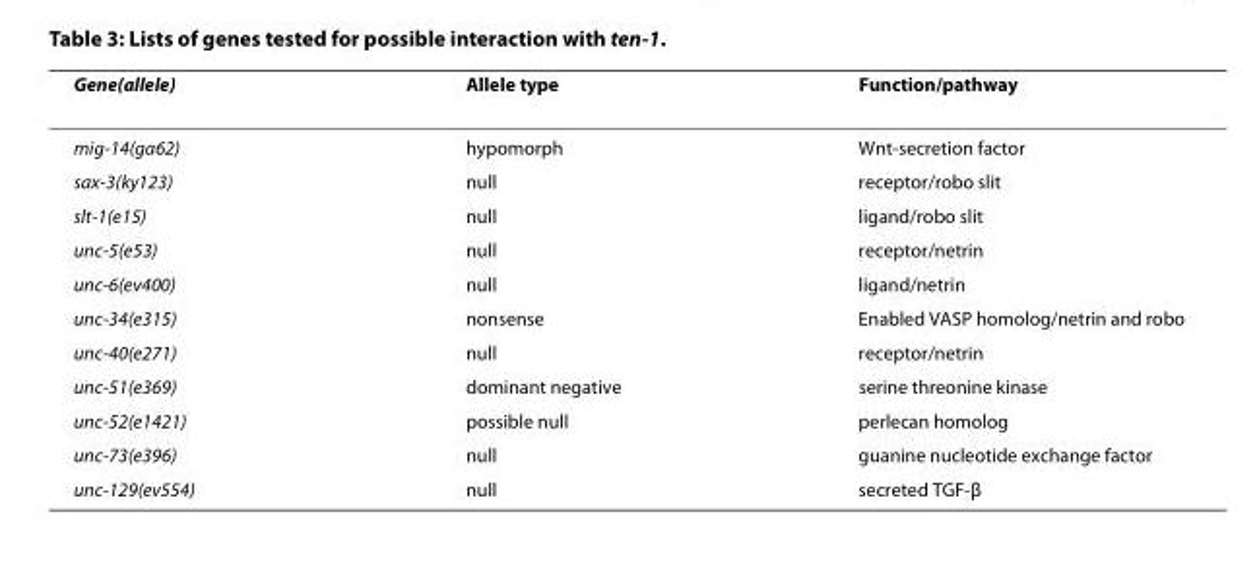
<table><thead><tr><td>Gene(allele)</td><td>Allele type</td><td>Function/pathway</td></tr></thead><tbody><tr><td>mig-14(ga62)</td><td>hypomorph</td><td>Wnt-secretion factor</td></tr><tr><td>sax-3(ky123)</td><td>null</td><td>receptor/robo slit</td></tr><tr><td>slt-1(e15)</td><td>null</td><td>ligand/robo slit</td></tr><tr><td>unc-5(e53)</td><td>null</td><td>receptor/netrin</td></tr><tr><td>unc-6(ev400)</td><td>null</td><td>ligand/netrin</td></tr><tr><td>unc-34(e315)</td><td>nonsense</td><td>Enabled VASP homolog/netrin and robo</td></tr><tr><td>unc-40(e271)</td><td>null</td><td>receptor/netrin</td></tr><tr><td>unc-51(e369)</td><td>dominant negative</td><td>serine threonine kinase</td></tr><tr><td>unc-52(e1421)</td><td>possible null</td><td>perlecan homolog</td></tr><tr><td>unc-73(e396)</td><td>null</td><td>guanine nucleotide exchange factor</td></tr><tr><td>unc-129(ev554)</td><td>null</td><td>secreted TGF-β</td></tr></tbody></table>